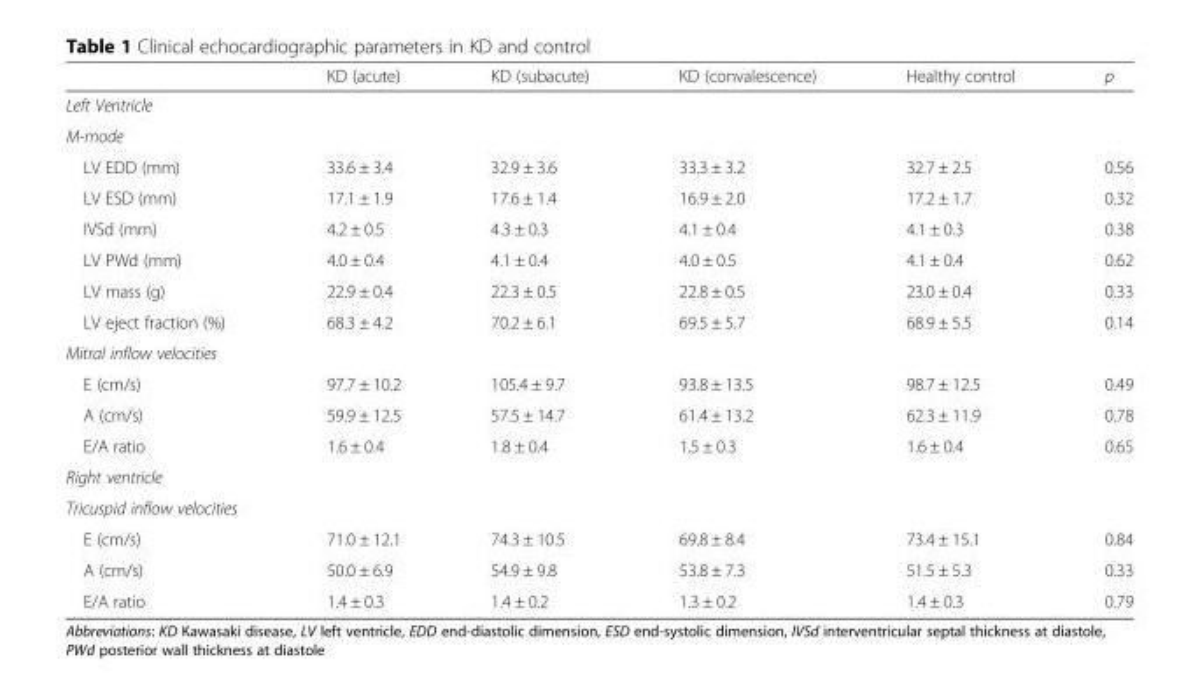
<table><thead><tr><td></td><td>KD (acute)</td><td>KD (subacute)</td><td>KD (convalescence)</td><td>Healthy control</td><td>p</td></tr></thead><tbody><tr><td colspan="6">Left Ventricle</td></tr><tr><td colspan="6">M-mode</td></tr><tr><td>LV EDD (mm)</td><td>33.6 ± 3.4</td><td>32.9 ± 3.6</td><td>33.3 ± 3.2</td><td>32.7 ± 2.5</td><td>0.56</td></tr><tr><td>LV ESD (mm)</td><td>17.1 ± 1.9</td><td>17.6 ± 1.4</td><td>16.9 ± 2.0</td><td>17.2 ± 1.7</td><td>0.32</td></tr><tr><td>IVSd (mm)</td><td>4.2 ± 0.5</td><td>4.3 ± 0.3</td><td>4.1 ± 0.4</td><td>4.1 ± 0.3</td><td>0.38</td></tr><tr><td>LV PWd (mm)</td><td>4.0 ± 0.4</td><td>4.1 ± 0.4</td><td>4.0 ± 0.5</td><td>4.1 ± 0.4</td><td>0.62</td></tr><tr><td>LV mass (g)</td><td>22.9 ± 0.4</td><td>22.3 ± 0.5</td><td>22.8 ± 0.5</td><td>23.0 ± 0.4</td><td>0.33</td></tr><tr><td>LV eject fraction (%)</td><td>68.3 ± 4.2</td><td>70.2 ± 6.1</td><td>69.5 ± 5.7</td><td>68.9 ± 5.5</td><td>0.14</td></tr><tr><td colspan="6">Mitral inflow velocities</td></tr><tr><td>E (cm/s)</td><td>97.7 ± 10.2</td><td>105.4 ± 9.7</td><td>93.8 ± 13.5</td><td>98.7 ± 12.5</td><td>0.49</td></tr><tr><td>A (cm/s)</td><td>59.9 ± 12.5</td><td>57.5 ± 14.7</td><td>61.4 ± 13.2</td><td>62.3 ± 11.9</td><td>0.78</td></tr><tr><td>E/A ratio</td><td>1.6 ± 0.4</td><td>1.8 ± 0.4</td><td>1.5 ± 0.3</td><td>1.6 ± 0.4</td><td>0.65</td></tr><tr><td colspan="6">Right ventricle</td></tr><tr><td colspan="6">Tricuspid inflow velocities</td></tr><tr><td>E (cm/s)</td><td>71.0 ± 12.1</td><td>74.3 ± 10.5</td><td>69.8 ± 8.4</td><td>73.4 ± 15.1</td><td>0.84</td></tr><tr><td>A (cm/s)</td><td>50.0 ± 6.9</td><td>54.9 ± 9.8</td><td>53.8 ± 7.3</td><td>51.5 ± 5.3</td><td>0.33</td></tr><tr><td>E/A ratio</td><td>1.4 ± 0.3</td><td>1.4 ± 0.2</td><td>1.3 ± 0.2</td><td>1.4 ± 0.3</td><td>0.79</td></tr></tbody></table>